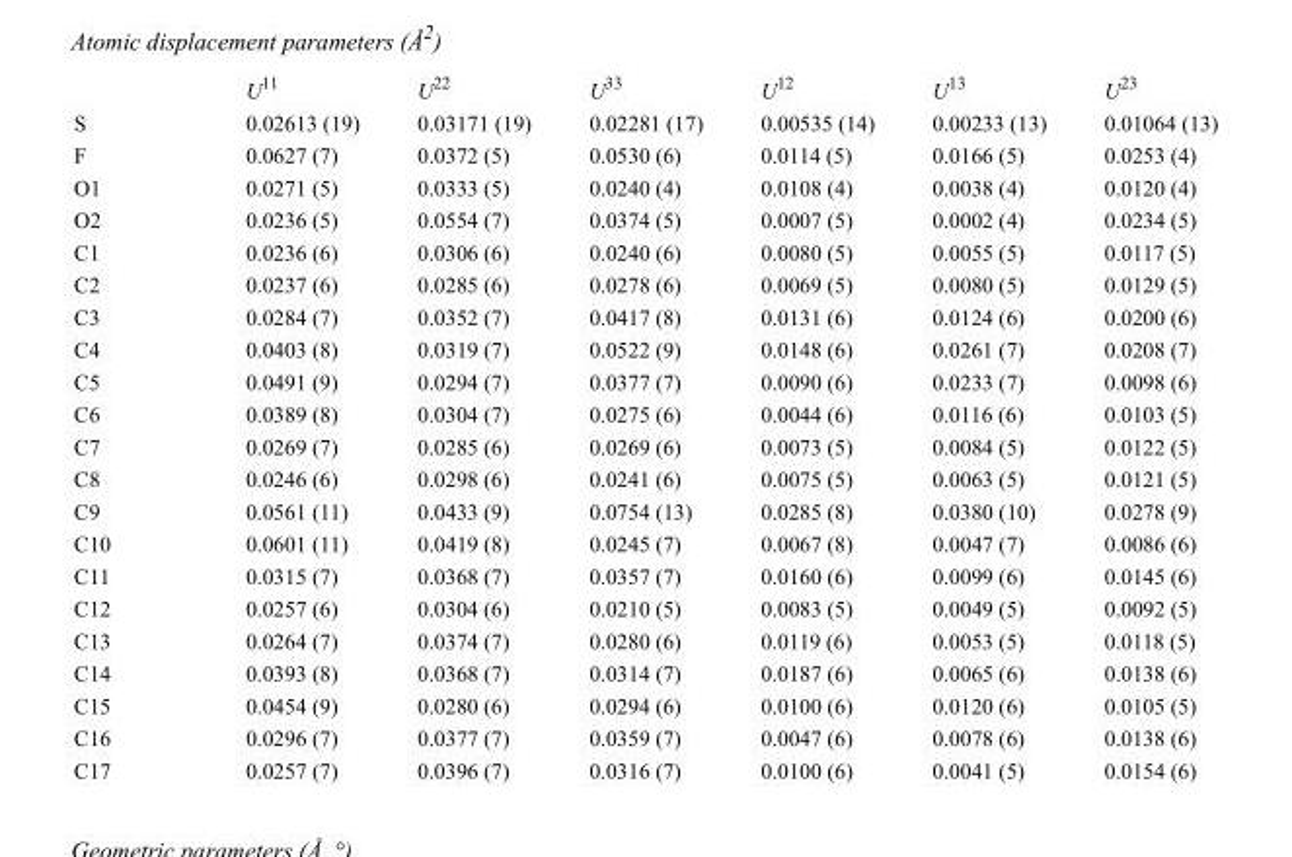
<table><thead><tr><td></td><td>U<sup>11</sup></td><td>U<sup>22</sup></td><td>U<sup>33</sup></td><td>U<sup>12</sup></td><td>U<sup>13</sup></td><td>U<sup>23</sup></td></tr></thead><tbody><tr><td>S</td><td>0.02613 (19)</td><td>0.03171 (19)</td><td>0.02281 (17)</td><td>0.00535 (14)</td><td>0.00233 (13)</td><td>0.01064 (13)</td></tr><tr><td>F</td><td>0.0627 (7)</td><td>0.0372 (5)</td><td>0.0530 (6)</td><td>0.0114 (5)</td><td>0.0166 (5)</td><td>0.0253 (4)</td></tr><tr><td>O1</td><td>0.0271 (5)</td><td>0.0333 (5)</td><td>0.0240 (4)</td><td>0.0108 (4)</td><td>0.0038 (4)</td><td>0.0120 (4)</td></tr><tr><td>O2</td><td>0.0236 (5)</td><td>0.0554 (7)</td><td>0.0374 (5)</td><td>0.0007 (5)</td><td>0.0002 (4)</td><td>0.0234 (5)</td></tr><tr><td>C1</td><td>0.0236 (6)</td><td>0.0306 (6)</td><td>0.0240 (6)</td><td>0.0080 (5)</td><td>0.0055 (5)</td><td>0.0117 (5)</td></tr><tr><td>C2</td><td>0.0237 (6)</td><td>0.0285 (6)</td><td>0.0278 (6)</td><td>0.0069 (5)</td><td>0.0080 (5)</td><td>0.0129 (5)</td></tr><tr><td>C3</td><td>0.0284 (7)</td><td>0.0352 (7)</td><td>0.0417 (8)</td><td>0.0131 (6)</td><td>0.0124 (6)</td><td>0.0200 (6)</td></tr><tr><td>C4</td><td>0.0403 (8)</td><td>0.0319 (7)</td><td>0.0522 (9)</td><td>0.0148 (6)</td><td>0.0261 (7)</td><td>0.0208 (7)</td></tr><tr><td>C5</td><td>0.0491 (9)</td><td>0.0294 (7)</td><td>0.0377 (7)</td><td>0.0090 (6)</td><td>0.0233 (7)</td><td>0.0098 (6)</td></tr><tr><td>C6</td><td>0.0389 (8)</td><td>0.0304 (7)</td><td>0.0275 (6)</td><td>0.0044 (6)</td><td>0.0116 (6)</td><td>0.0103 (5)</td></tr><tr><td>C7</td><td>0.0269 (7)</td><td>0.0285 (6)</td><td>0.0269 (6)</td><td>0.0073 (5)</td><td>0.0084 (5)</td><td>0.0122 (5)</td></tr><tr><td>C8</td><td>0.0246 (6)</td><td>0.0298 (6)</td><td>0.0241 (6)</td><td>0.0075 (5)</td><td>0.0063 (5)</td><td>0.0121 (5)</td></tr><tr><td>C9</td><td>0.0561 (11)</td><td>0.0433 (9)</td><td>0.0754 (13)</td><td>0.0285 (8)</td><td>0.0380 (10)</td><td>0.0278 (9)</td></tr><tr><td>C10</td><td>0.0601 (11)</td><td>0.0419 (8)</td><td>0.0245 (7)</td><td>0.0067 (8)</td><td>0.0047 (7)</td><td>0.0086 (6)</td></tr><tr><td>C11</td><td>0.0315 (7)</td><td>0.0368 (7)</td><td>0.0357 (7)</td><td>0.0160 (6)</td><td>0.0099 (6)</td><td>0.0145 (6)</td></tr><tr><td>C12</td><td>0.0257 (6)</td><td>0.0304 (6)</td><td>0.0210 (5)</td><td>0.0083 (5)</td><td>0.0049 (5)</td><td>0.0092 (5)</td></tr><tr><td>C13</td><td>0.0264 (7)</td><td>0.0374 (7)</td><td>0.0280 (6)</td><td>0.0119 (6)</td><td>0.0053 (5)</td><td>0.0118 (5)</td></tr><tr><td>C14</td><td>0.0393 (8)</td><td>0.0368 (7)</td><td>0.0314 (7)</td><td>0.0187 (6)</td><td>0.0065 (6)</td><td>0.0138 (6)</td></tr><tr><td>C15</td><td>0.0454 (9)</td><td>0.0280 (6)</td><td>0.0294 (6)</td><td>0.0100 (6)</td><td>0.0120 (6)</td><td>0.0105 (5)</td></tr><tr><td>C16</td><td>0.0296 (7)</td><td>0.0377 (7)</td><td>0.0359 (7)</td><td>0.0047 (6)</td><td>0.0078 (6)</td><td>0.0138 (6)</td></tr><tr><td>C17</td><td>0.0257 (7)</td><td>0.0396 (7)</td><td>0.0316 (7)</td><td>0.0100 (6)</td><td>0.0041 (5)</td><td>0.0154 (6)</td></tr></tbody></table>